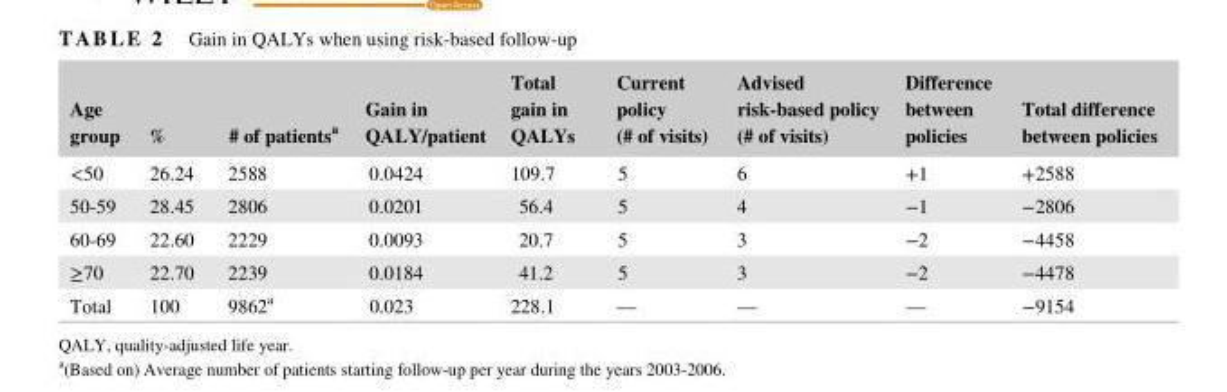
<table><thead><tr><td>Age group</td><td>%</td><td># of patients<sup>a</sup></td><td>Gain in QALY/patient</td><td>Total gain in QALYs</td><td>Current policy (# of visits)</td><td>Advised risk- based policy (# of visits)</td><td>Difference between policies</td><td>Total difference between policies</td></tr></thead><tbody><tr><td>&lt;50</td><td>26.24</td><td>2588</td><td>0.0424</td><td>109.7</td><td>5</td><td>6</td><td>+1</td><td>+2588</td></tr><tr><td>50- 59</td><td>28.45</td><td>2806</td><td>0.0201</td><td>56.4</td><td>5</td><td>4</td><td>−1</td><td>−2806</td></tr><tr><td>60- 69</td><td>22.60</td><td>2229</td><td>0.0093</td><td>20.7</td><td>5</td><td>3</td><td>−2</td><td>−4458</td></tr><tr><td>≥70</td><td>22.70</td><td>2239</td><td>0.0184</td><td>41.2</td><td>5</td><td>3</td><td>−2</td><td>−4478</td></tr><tr><td>Total</td><td>100</td><td>9862<sup>a</sup></td><td>0.023</td><td>228.1</td><td>—</td><td>—</td><td>—</td><td>−9154</td></tr></tbody></table>